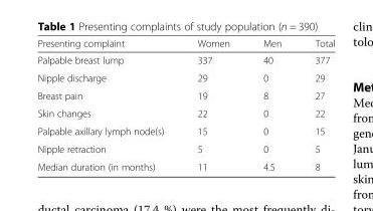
<table><thead><tr><td>Presenting complaint</td><td>Women</td><td>Men</td><td>Total</td></tr></thead><tbody><tr><td>Palpable breast lump</td><td>337</td><td>40</td><td>377</td></tr><tr><td>Nipple discharge</td><td>29</td><td>0</td><td>29</td></tr><tr><td>Breast pain</td><td>19</td><td>8</td><td>27</td></tr><tr><td>Skin changes</td><td>22</td><td>0</td><td>22</td></tr><tr><td>Palpable axillary lymph node(s)</td><td>15</td><td>0</td><td>15</td></tr><tr><td>Nipple retraction</td><td>5</td><td>0</td><td>5</td></tr><tr><td>Median duration (in months)</td><td>11</td><td>4.5</td><td>8</td></tr></tbody></table>